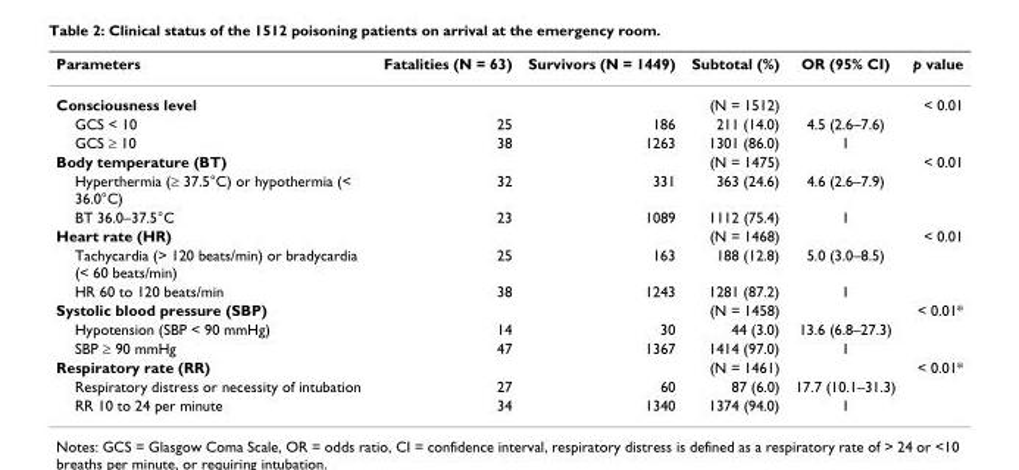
<table><thead><tr><td>Parameters</td><td>Fatalities (N = 63)</td><td>Survivors (N = 1449)</td><td>Subtotal (%)</td><td>OR (95% CI)</td><td>p value</td></tr></thead><tbody><tr><td>Consciousness level</td><td></td><td></td><td>(N = 1512)</td><td></td><td>&lt; 0.01</td></tr><tr><td>GCS &lt; 10</td><td>25</td><td>186</td><td>211 (14.0)</td><td>4.5 (2.6–7.6)</td><td></td></tr><tr><td>GCS ≥ 10</td><td>38</td><td>1263</td><td>1301 (86.0)</td><td>1</td><td></td></tr><tr><td>Body temperature (BT)</td><td></td><td></td><td>(N = 1475)</td><td></td><td>&lt; 0.01</td></tr><tr><td>Hyperthermia (≥ 37.5°C) or hypothermia (&lt; 36.0°C)</td><td>32</td><td>331</td><td>363 (24.6)</td><td>4.6 (2.6–7.9)</td><td></td></tr><tr><td>BT 36.0–37.5°C</td><td>23</td><td>1089</td><td>1112 (75.4)</td><td>1</td><td></td></tr><tr><td>Heart rate (HR)</td><td></td><td></td><td>(N = 1468)</td><td></td><td>&lt; 0.01</td></tr><tr><td>Tachycardia (&gt; 120 beats/min) or bradycardia (&lt; 60 beats/min)</td><td>25</td><td>163</td><td>188 (12.8)</td><td>5.0 (3.0–8.5)</td><td></td></tr><tr><td>HR 60 to 120 beats/min</td><td>38</td><td>1243</td><td>1281 (87.2)</td><td>1</td><td></td></tr><tr><td>Systolic blood pressure (SBP)</td><td></td><td></td><td>(N = 1458)</td><td></td><td>&lt; 0.01*</td></tr><tr><td>Hypotension (SBP &lt; 90 mmHg)</td><td>14</td><td>30</td><td>44 (3.0)</td><td>13.6 (6.8–27.3)</td><td></td></tr><tr><td>SBP ≥ 90 mmHg</td><td>47</td><td>1367</td><td>1414 (97.0)</td><td>1</td><td></td></tr><tr><td>Respiratory rate (RR)</td><td></td><td></td><td>(N = 1461)</td><td></td><td>&lt; 0.01*</td></tr><tr><td>Respiratory distress or necessity of intubation</td><td>27</td><td>60</td><td>87 (6.0)</td><td>17.7 (10.1–31.3)</td><td></td></tr><tr><td>RR 10 to 24 per minute</td><td>34</td><td>1340</td><td>1374 (94.0)</td><td>1</td><td></td></tr></tbody></table>